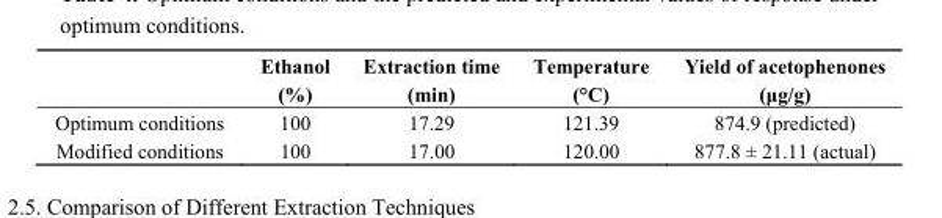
<table><thead><tr><td></td><td>Ethanol (%)</td><td>Extraction time (min)</td><td>Temperature (°C)</td><td>Yield of acetophenones (μg/g)</td></tr></thead><tbody><tr><td>Optimum conditions</td><td>100</td><td>17.29</td><td>121.39</td><td>874.9 (predicted)</td></tr><tr><td>Modified conditions</td><td>100</td><td>17.00</td><td>120.00</td><td>877.8 ± 21.11 (actual)</td></tr></tbody></table>